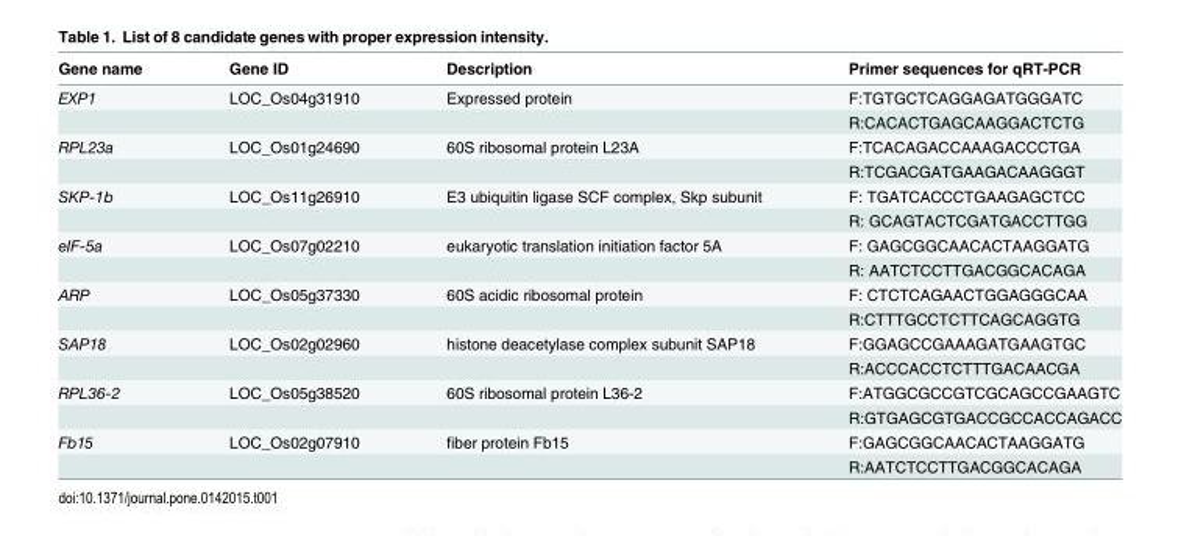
<table><thead><tr><td>Gene name</td><td>Gene ID</td><td>Description</td><td>Primer sequences for qRT-PCR</td></tr></thead><tbody><tr><td rowspan="2">EXP1</td><td>LOC_Os04g31910</td><td>Expressed protein</td><td>F:TGTGCTCAGGAGATGGGATC</td></tr><tr><td></td><td></td><td>R:CACACTGAGCAAGGACTCTG</td></tr><tr><td rowspan="2">RPL23a</td><td>LOC_Os01g24690</td><td>60S ribosomal protein L23A</td><td>F:TCACAGACCAAAGACCCTGA</td></tr><tr><td></td><td></td><td>R:TCGACGATGAAGACAAGGGT</td></tr><tr><td rowspan="2">SKP-1b</td><td>LOC_Os11g26910</td><td>E3 ubiquitin ligase SCF complex, Skp subunit</td><td>F: TGATCACCCTGAAGAGCTCC</td></tr><tr><td></td><td></td><td>R: GCAGTACTCGATGACCTTGG</td></tr><tr><td rowspan="2">eIF-5a</td><td>LOC_Os07g02210</td><td>eukaryotic translation initiation factor 5A</td><td>F: GAGCGGCAACACTAAGGATG</td></tr><tr><td></td><td></td><td>R: AATCTCCTTGACGGCACAGA</td></tr><tr><td rowspan="2">ARP</td><td>LOC_Os05g37330</td><td>60S acidic ribosomal protein</td><td>F: CTCTCAGAACTGGAGGGCAA</td></tr><tr><td></td><td></td><td>R:CTTTGCCTCTTCAGCAGGTG</td></tr><tr><td rowspan="2">SAP18</td><td>LOC_Os02g02960</td><td>histone deacetylase complex subunit SAP18</td><td>F:GGAGCCGAAAGATGAAGTGC</td></tr><tr><td></td><td></td><td>R:ACCCACCTCTTTGACAACGA</td></tr><tr><td rowspan="2">RPL36-2</td><td>LOC_Os05g38520</td><td>60S ribosomal protein L36-2</td><td>F:ATGGCGCCGTCGCAGCCGAAGTC</td></tr><tr><td></td><td></td><td>R:GTGAGCGTGACCGCCACCAGACC</td></tr><tr><td rowspan="2">Fb15</td><td>LOC_Os02g07910</td><td>fiber protein Fb15</td><td>F:GAGCGGCAACACTAAGGATG</td></tr><tr><td></td><td></td><td>R:AATCTCCTTGACGGCACAGA</td></tr></tbody></table>